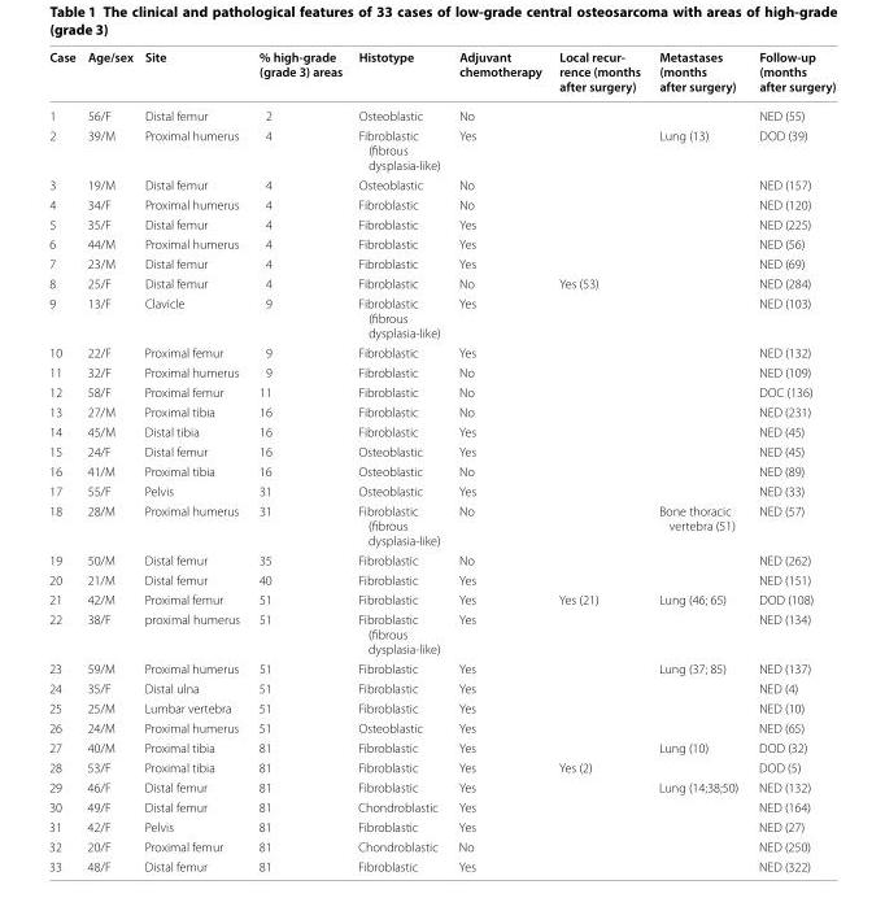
<table><thead><tr><td>Case</td><td>Age/sex</td><td>Site</td><td>% high‑grade (grade 3) areas</td><td>Histotype</td><td>Adjuvant chemotherapy</td><td>Local recur‑ rence (months after surgery)</td><td>Metastases (months after surgery)</td><td>Follow‑up (months after surgery)</td></tr></thead><tbody><tr><td>1</td><td>56/F</td><td>Distal femur</td><td>2</td><td>Osteoblastic</td><td>No</td><td></td><td></td><td>NED (55)</td></tr><tr><td>2</td><td>39/M</td><td>Proximal humerus</td><td>4</td><td>Fibroblastic (fibrous dysplasia-like)</td><td>Yes</td><td></td><td>Lung (13)</td><td>DOD (39)</td></tr><tr><td>3</td><td>19/M</td><td>Distal femur</td><td>4</td><td>Osteoblastic</td><td>No</td><td></td><td></td><td>NED (157)</td></tr><tr><td>4</td><td>34/F</td><td>Proximal humerus</td><td>4</td><td>Fibroblastic</td><td>No</td><td></td><td></td><td>NED (120)</td></tr><tr><td>5</td><td>35/F</td><td>Distal femur</td><td>4</td><td>Fibroblastic</td><td>Yes</td><td></td><td></td><td>NED (225)</td></tr><tr><td>6</td><td>44/M</td><td>Proximal humerus</td><td>4</td><td>Fibroblastic</td><td>Yes</td><td></td><td></td><td>NED (56)</td></tr><tr><td>7</td><td>23/M</td><td>Distal femur</td><td>4</td><td>Fibroblastic</td><td>Yes</td><td></td><td></td><td>NED (69)</td></tr><tr><td>8</td><td>25/F</td><td>Distal femur</td><td>4</td><td>Fibroblastic</td><td>No</td><td>Yes (53)</td><td></td><td>NED (284)</td></tr><tr><td>9</td><td>13/F</td><td>Clavicle</td><td>9</td><td>Fibroblastic (fibrous dysplasia-like)</td><td>Yes</td><td></td><td></td><td>NED (103)</td></tr><tr><td>10</td><td>22/F</td><td>Proximal femur</td><td>9</td><td>Fibroblastic</td><td>Yes</td><td></td><td></td><td>NED (132)</td></tr><tr><td>11</td><td>32/F</td><td>Proximal humerus</td><td>9</td><td>Fibroblastic</td><td>No</td><td></td><td></td><td>NED (109)</td></tr><tr><td>12</td><td>58/F</td><td>Proximal femur</td><td>11</td><td>Fibroblastic</td><td>No</td><td></td><td></td><td>DOC (136)</td></tr><tr><td>13</td><td>27/M</td><td>Proximal tibia</td><td>16</td><td>Fibroblastic</td><td>No</td><td></td><td></td><td>NED (231)</td></tr><tr><td>14</td><td>45/M</td><td>Distal tibia</td><td>16</td><td>Fibroblastic</td><td>Yes</td><td></td><td></td><td>NED (45)</td></tr><tr><td>15</td><td>24/F</td><td>Distal femur</td><td>16</td><td>Osteoblastic</td><td>Yes</td><td></td><td></td><td>NED (45)</td></tr><tr><td>16</td><td>41/M</td><td>Proximal tibia</td><td>16</td><td>Osteoblastic</td><td>No</td><td></td><td></td><td>NED (89)</td></tr><tr><td>17</td><td>55/F</td><td>Pelvis</td><td>31</td><td>Osteoblastic</td><td>Yes</td><td></td><td></td><td>NED (33)</td></tr><tr><td>18</td><td>28/M</td><td>Proximal humerus</td><td>31</td><td>Fibroblastic (fibrous dysplasia-like)</td><td>No</td><td></td><td>Bone thoracic vertebra (51)</td><td>NED (57)</td></tr><tr><td>19</td><td>50/M</td><td>Distal femur</td><td>35</td><td>Fibroblastic</td><td>No</td><td></td><td></td><td>NED (262)</td></tr><tr><td>20</td><td>21/M</td><td>Distal femur</td><td>40</td><td>Fibroblastic</td><td>Yes</td><td></td><td></td><td>NED (151)</td></tr><tr><td>21</td><td>42/M</td><td>Proximal femur</td><td>51</td><td>Fibroblastic</td><td>Yes</td><td>Yes (21)</td><td>Lung (46; 65)</td><td>DOD (108)</td></tr><tr><td>22</td><td>38/F</td><td>proximal humerus</td><td>51</td><td>Fibroblastic (fibrous dysplasia-like)</td><td>Yes</td><td></td><td></td><td>NED (134)</td></tr><tr><td>23</td><td>59/M</td><td>Proximal humerus</td><td>51</td><td>Fibroblastic</td><td>Yes</td><td></td><td>Lung (37; 85)</td><td>NED (137)</td></tr><tr><td>24</td><td>35/F</td><td>Distal ulna</td><td>51</td><td>Fibroblastic</td><td>Yes</td><td></td><td></td><td>NED (4)</td></tr><tr><td>25</td><td>25/M</td><td>Lumbar vertebra</td><td>51</td><td>Fibroblastic</td><td>Yes</td><td></td><td></td><td>NED (10)</td></tr><tr><td>26</td><td>24/M</td><td>Proximal humerus</td><td>51</td><td>Osteoblastic</td><td>Yes</td><td></td><td></td><td>NED (65)</td></tr><tr><td>27</td><td>40/M</td><td>Proximal tibia</td><td>81</td><td>Fibroblastic</td><td>Yes</td><td></td><td>Lung (10)</td><td>DOD (32)</td></tr><tr><td>28</td><td>53/F</td><td>Proximal tibia</td><td>81</td><td>Fibroblastic</td><td>Yes</td><td>Yes (2)</td><td></td><td>DOD (5)</td></tr><tr><td>29</td><td>46/F</td><td>Distal femur</td><td>81</td><td>Fibroblastic</td><td>Yes</td><td></td><td>Lung (14;38;50)</td><td>NED (132)</td></tr><tr><td>30</td><td>49/F</td><td>Distal femur</td><td>81</td><td>Chondroblastic</td><td>Yes</td><td></td><td></td><td>NED (164)</td></tr><tr><td>31</td><td>42/F</td><td>Pelvis</td><td>81</td><td>Fibroblastic</td><td>Yes</td><td></td><td></td><td>NED (27)</td></tr><tr><td>32</td><td>20/F</td><td>Proximal femur</td><td>81</td><td>Chondroblastic</td><td>No</td><td></td><td></td><td>NED (250)</td></tr><tr><td>33</td><td>48/F</td><td>Distal femur</td><td>81</td><td>Fibroblastic</td><td>Yes</td><td></td><td></td><td>NED (322)</td></tr></tbody></table>